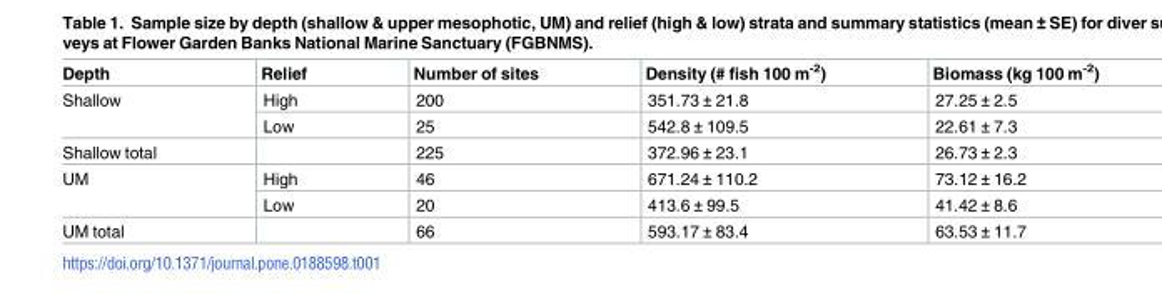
<table><thead><tr><td>Depth</td><td>Relief</td><td>Number of sites</td><td>Density (# fish 100 m<sup>-2</sup>)</td><td>Biomass (kg 100 m<sup>-2</sup>)</td></tr></thead><tbody><tr><td rowspan="2">Shallow</td><td>High</td><td>200</td><td>351.73 ± 21.8</td><td>27.25 ± 2.5</td></tr><tr><td>Low</td><td>25</td><td>542.8 ± 109.5</td><td>22.61 ± 7.3</td></tr><tr><td>Shallow total</td><td></td><td>225</td><td>372.96 ± 23.1</td><td>26.73 ± 2.3</td></tr><tr><td rowspan="2">UM</td><td>High</td><td>46</td><td>671.24 ± 110.2</td><td>73.12 ± 16.2</td></tr><tr><td>Low</td><td>20</td><td>413.6 ± 99.5</td><td>41.42 ± 8.6</td></tr><tr><td>UM total</td><td></td><td>66</td><td>593.17 ± 83.4</td><td>63.53 ± 11.7</td></tr></tbody></table>